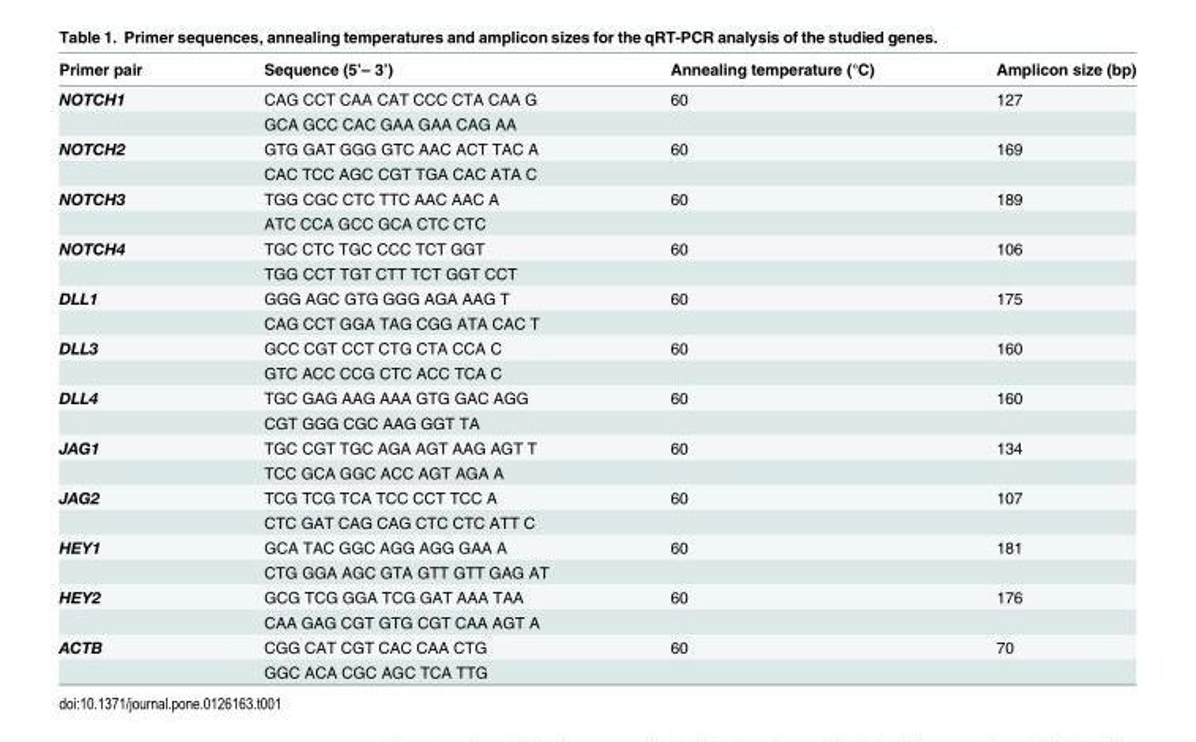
<table><thead><tr><td>Primer pair</td><td>Sequence (5’– 3’)</td><td>Annealing temperature (°C)</td><td>Amplicon size (bp)</td></tr></thead><tbody><tr><td rowspan="2">NOTCH1</td><td>CAG CCT CAA CAT CCC CTA CAA G</td><td>60</td><td>127</td></tr><tr><td>GCA GCC CAC GAA GAA CAG AA</td><td></td><td></td></tr><tr><td rowspan="2">NOTCH2</td><td>GTG GAT GGG GTC AAC ACT TAC A</td><td>60</td><td>169</td></tr><tr><td>CAC TCC AGC CGT TGA CAC ATA C</td><td></td><td></td></tr><tr><td rowspan="2">NOTCH3</td><td>TGG CGC CTC TTC AAC AAC A</td><td>60</td><td>189</td></tr><tr><td>ATC CCA GCC GCA CTC CTC</td><td></td><td></td></tr><tr><td rowspan="2">NOTCH4</td><td>TGC CTC TGC CCC TCT GGT</td><td>60</td><td>106</td></tr><tr><td>TGG CCT TGT CTT TCT GGT CCT</td><td></td><td></td></tr><tr><td rowspan="2">DLL1</td><td>GGG AGC GTG GGG AGA AAG T</td><td>60</td><td>175</td></tr><tr><td>CAG CCT GGA TAG CGG ATA CAC T</td><td></td><td></td></tr><tr><td rowspan="2">DLL3</td><td>GCC CGT CCT CTG CTA CCA C</td><td>60</td><td>160</td></tr><tr><td>GTC ACC CCG CTC ACC TCA C</td><td></td><td></td></tr><tr><td rowspan="2">DLL4</td><td>TGC GAG AAG AAA GTG GAC AGG</td><td>60</td><td>160</td></tr><tr><td>CGT GGG CGC AAG GGT TA</td><td></td><td></td></tr><tr><td rowspan="2">JAG1</td><td>TGC CGT TGC AGA AGT AAG AGT T</td><td>60</td><td>134</td></tr><tr><td>TCC GCA GGC ACC AGT AGA A</td><td></td><td></td></tr><tr><td rowspan="2">JAG2</td><td>TCG TCG TCA TCC CCT TCC A</td><td>60</td><td>107</td></tr><tr><td>CTC GAT CAG CAG CTC CTC ATT C</td><td></td><td></td></tr><tr><td rowspan="2">HEY1</td><td>GCA TAC GGC AGG AGG GAA A</td><td>60</td><td>181</td></tr><tr><td>CTG GGA AGC GTA GTT GTT GAG AT</td><td></td><td></td></tr><tr><td rowspan="2">HEY2</td><td>GCG TCG GGA TCG GAT AAA TAA</td><td>60</td><td>176</td></tr><tr><td>CAA GAG CGT GTG CGT CAA AGT A</td><td></td><td></td></tr><tr><td rowspan="2">ACTB</td><td>CGG CAT CGT CAC CAA CTG</td><td>60</td><td>70</td></tr><tr><td>GGC ACA CGC AGC TCA TTG</td><td></td><td></td></tr></tbody></table>